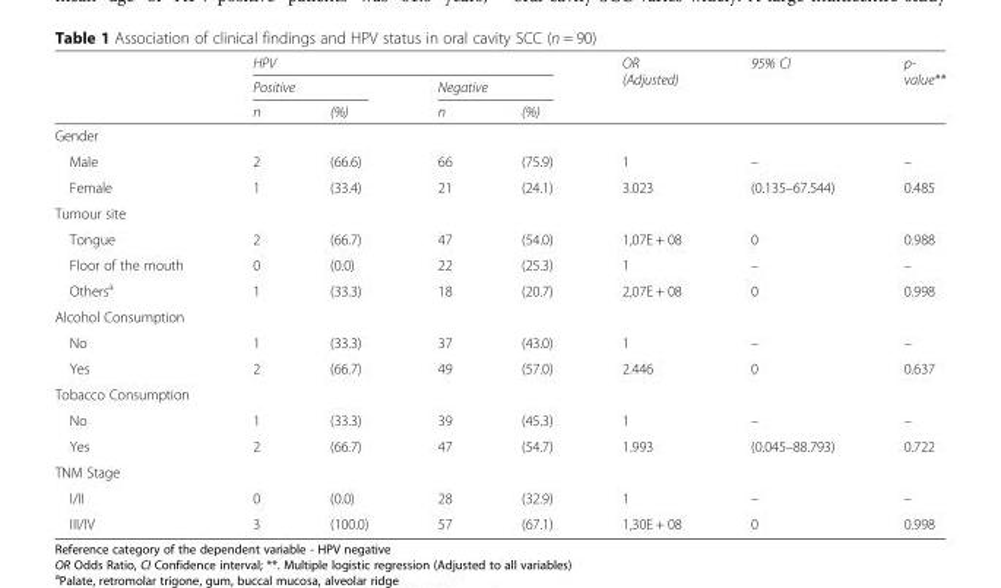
<table><thead><tr><td rowspan="3"></td><td colspan="4">HPV</td><td rowspan="3">OR (Adjusted)</td><td rowspan="3">95% CI</td><td rowspan="3">p- value**</td></tr><tr><td colspan="2">Positive</td><td colspan="2">Negative</td></tr><tr><td>n</td><td>(%)</td><td>n</td><td>(%)</td></tr></thead><tbody><tr><td colspan="8">Gender</td></tr><tr><td>Male</td><td>2</td><td>(66.6)</td><td>66</td><td>(75.9)</td><td>1</td><td>–</td><td>–</td></tr><tr><td>Female</td><td>1</td><td>(33.4)</td><td>21</td><td>(24.1)</td><td>3.023</td><td>(0.135–67.544)</td><td>0.485</td></tr><tr><td colspan="8">Tumour site</td></tr><tr><td>Tongue</td><td>2</td><td>(66.7)</td><td>47</td><td>(54.0)</td><td>1,07E + 08</td><td>0</td><td>0.988</td></tr><tr><td>Floor of the mouth</td><td>0</td><td>(0.0)</td><td>22</td><td>(25.3)</td><td>1</td><td>–</td><td>–</td></tr><tr><td>Others<sup>a</sup></td><td>1</td><td>(33.3)</td><td>18</td><td>(20.7)</td><td>2,07E + 08</td><td>0</td><td>0.998</td></tr><tr><td colspan="8">Alcohol Consumption</td></tr><tr><td>No</td><td>1</td><td>(33.3)</td><td>37</td><td>(43.0)</td><td>1</td><td>–</td><td>–</td></tr><tr><td>Yes</td><td>2</td><td>(66.7)</td><td>49</td><td>(57.0)</td><td>2.446</td><td>0</td><td>0.637</td></tr><tr><td colspan="8">Tobacco Consumption</td></tr><tr><td>No</td><td>1</td><td>(33.3)</td><td>39</td><td>(45.3)</td><td>1</td><td>–</td><td>–</td></tr><tr><td>Yes</td><td>2</td><td>(66.7)</td><td>47</td><td>(54.7)</td><td>1.993</td><td>(0.045–88.793)</td><td>0.722</td></tr><tr><td colspan="8">TNM Stage</td></tr><tr><td>I/II</td><td>0</td><td>(0.0)</td><td>28</td><td>(32.9)</td><td>1</td><td>–</td><td>–</td></tr><tr><td>III/IV</td><td>3</td><td>(100.0)</td><td>57</td><td>(67.1)</td><td>1,30E + 08</td><td>0</td><td>0.998</td></tr></tbody></table>